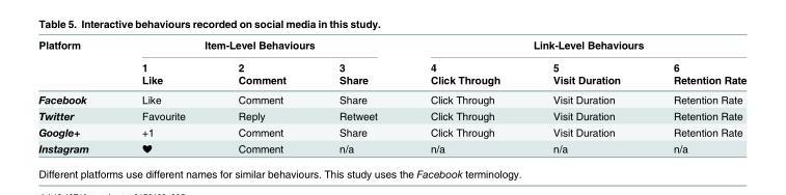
<table><thead><tr><td rowspan="3">Platform</td><td colspan="3">Item-Level Behaviours</td><td colspan="3">Link-Level Behaviours</td></tr><tr><td rowspan="2">1 Like</td><td rowspan="2">2 Comment</td><td rowspan="2">3 Share</td><td rowspan="2">4 Click Through</td><td rowspan="2">5 Visit Duration</td><td rowspan="2">6 Retention Rate</td></tr><tr></tr></thead><tbody><tr><td>Facebook</td><td>Like</td><td>Comment</td><td>Share</td><td>Click Through</td><td>Visit Duration</td><td>Retention Rate</td></tr><tr><td>Twitter</td><td>Favourite</td><td>Reply</td><td>Retweet</td><td>Click Through</td><td>Visit Duration</td><td>Retention Rate</td></tr><tr><td>Google+</td><td>+1</td><td>Comment</td><td>Share</td><td>Click Through</td><td>Visit Duration</td><td>Retention Rate</td></tr><tr><td>Instagram</td><td>❤</td><td>Comment</td><td>n/a</td><td>n/a</td><td>n/a</td><td>n/a</td></tr></tbody></table>